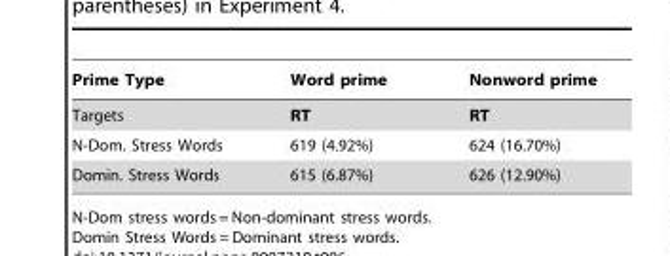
<table><thead><tr><td>Prime Type</td><td>Word prime</td><td>Nonword prime</td></tr></thead><tbody><tr><td>Targets</td><td>RT</td><td>RT</td></tr><tr><td>N-Dom. Stress Words</td><td>619 (4.92%)</td><td>624 (16.70%)</td></tr><tr><td>Domin. Stress Words</td><td>615 (6.87%)</td><td>626 (12.90%)</td></tr></tbody></table>